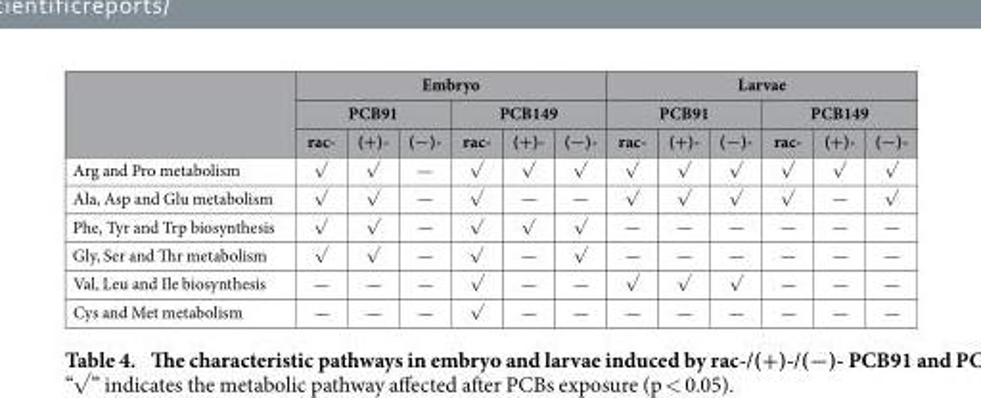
<table><thead><tr><td rowspan="3"></td><td colspan="6">Embryo</td><td colspan="6">Larvae</td></tr><tr><td colspan="3">PCB91</td><td colspan="3">PCB149</td><td colspan="3">PCB91</td><td colspan="3">PCB149</td></tr><tr><td>rac-</td><td>(+)-</td><td>(−)-</td><td>rac-</td><td>(+)-</td><td>(−)-</td><td>rac-</td><td>(+)-</td><td>(−)-</td><td>rac-</td><td>(+)-</td><td>(−)-</td></tr></thead><tbody><tr><td>Arg and Pro metabolism</td><td>√</td><td>√</td><td>—</td><td>√</td><td>√</td><td>√</td><td>√</td><td>√</td><td>√</td><td>√</td><td>√</td><td>√</td></tr><tr><td>Ala, Asp and Glu metabolism</td><td>√</td><td>√</td><td>—</td><td>√</td><td>—</td><td>—</td><td>√</td><td>√</td><td>√</td><td>√</td><td>—</td><td>√</td></tr><tr><td>Phe, Tyr and Trp biosynthesis</td><td>√</td><td>√</td><td>—</td><td>√</td><td>√</td><td>√</td><td>—</td><td>—</td><td>—</td><td>—</td><td>—</td><td>—</td></tr><tr><td>Gly, Ser and Thr metabolism</td><td>√</td><td>√</td><td>—</td><td>√</td><td>—</td><td>√</td><td>—</td><td>—</td><td>—</td><td>—</td><td>—</td><td>—</td></tr><tr><td>Val, Leu and Ile biosynthesis</td><td>—</td><td>—</td><td>—</td><td>√</td><td>—</td><td>—</td><td>√</td><td>√</td><td>√</td><td>—</td><td>—</td><td>—</td></tr><tr><td>Cys and Met metabolism</td><td>—</td><td>—</td><td>—</td><td>√</td><td>—</td><td>—</td><td>—</td><td>—</td><td>—</td><td>—</td><td>—</td><td>—</td></tr></tbody></table>